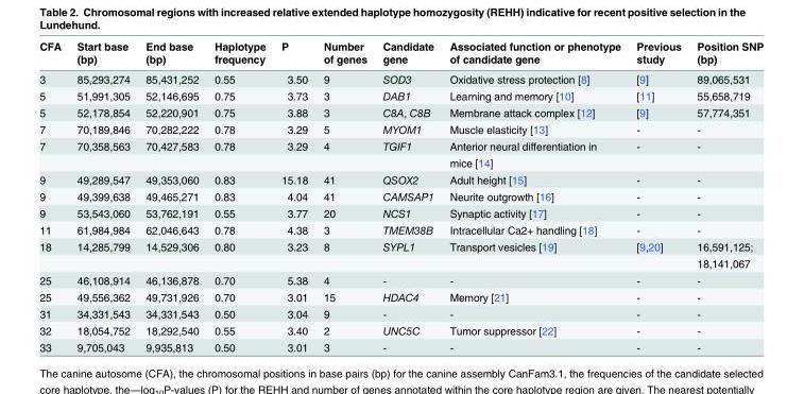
<table><thead><tr><td rowspan="2">CFA</td><td rowspan="2">Start base (bp)</td><td rowspan="2">End base (bp)</td><td rowspan="2">Haplotype frequency</td><td rowspan="2">P</td><td rowspan="2">Number of genes</td><td rowspan="2">Candidate gene</td><td rowspan="2">Associated function or phenotype of candidate gene</td><td rowspan="2">Previous study</td><td rowspan="2">Position SNP (bp)</td></tr><tr></tr></thead><tbody><tr><td>3</td><td>85,293,274</td><td>85,431,252</td><td>0.55</td><td>3.50</td><td>9</td><td>SOD3</td><td>Oxidative stress protection [8]</td><td>[9]</td><td>89,065,531</td></tr><tr><td>5</td><td>51,991,305</td><td>52,146,695</td><td>0.75</td><td>3.73</td><td>3</td><td>DAB1</td><td>Learning and memory [10]</td><td>[11]</td><td>55,658,719</td></tr><tr><td>5</td><td>52,178,854</td><td>52,220,901</td><td>0.75</td><td>3.88</td><td>3</td><td>C8A, C8B</td><td>Membrane attack complex [12]</td><td>[9]</td><td>57,774,351</td></tr><tr><td>7</td><td>70,189,846</td><td>70,282,222</td><td>0.78</td><td>3.29</td><td>5</td><td>MYOM1</td><td>Muscle elasticity [13]</td><td>-</td><td>-</td></tr><tr><td rowspan="2">7</td><td>70,358,563</td><td>70,427,583</td><td>0.78</td><td>3.29</td><td>4</td><td>TGIF1</td><td>Anterior neural differentiation in</td><td>-</td><td>-</td></tr><tr><td></td><td></td><td></td><td></td><td></td><td></td><td>mice [14]</td><td></td><td></td></tr><tr><td>9</td><td>49,289,547</td><td>49,353,060</td><td>0.83</td><td>15.18</td><td>41</td><td>QSOX2</td><td>Adult height [15]</td><td>-</td><td>-</td></tr><tr><td>9</td><td>49,399,638</td><td>49,465,271</td><td>0.83</td><td>4.04</td><td>41</td><td>CAMSAP1</td><td>Neurite outgrowth [16]</td><td>-</td><td>-</td></tr><tr><td>9</td><td>53,543,060</td><td>53,762,191</td><td>0.55</td><td>3.77</td><td>20</td><td>NCS1</td><td>Synaptic activity [17]</td><td>-</td><td>-</td></tr><tr><td>11</td><td>61,984,984</td><td>62,046,643</td><td>0.78</td><td>4.38</td><td>3</td><td>TMEM38B</td><td>Intracellular Ca2+ handling [18]</td><td>-</td><td>-</td></tr><tr><td rowspan="2">18</td><td>14,285,799</td><td>14,529,306</td><td>0.80</td><td>3.23</td><td>8</td><td>SYPL1</td><td>Transport vesicles [19]</td><td>[9,20]</td><td>16,591,125;</td></tr><tr><td></td><td></td><td></td><td></td><td></td><td></td><td></td><td></td><td>18,141,067</td></tr><tr><td>25</td><td>46,108,914</td><td>46,136,878</td><td>0.70</td><td>5.38</td><td>4</td><td>-</td><td>-</td><td>-</td><td>-</td></tr><tr><td>25</td><td>49,556,362</td><td>49,731,926</td><td>0.70</td><td>3.01</td><td>15</td><td>HDAC4</td><td>Memory [21]</td><td>-</td><td>-</td></tr><tr><td>31</td><td>34,331,543</td><td>34,331,543</td><td>0.50</td><td>3.04</td><td>9</td><td>-</td><td>-</td><td>-</td><td>-</td></tr><tr><td>32</td><td>18,054,752</td><td>18,292,540</td><td>0.55</td><td>3.40</td><td>2</td><td>UNC5C</td><td>Tumor suppressor [22]</td><td>-</td><td>-</td></tr><tr><td>33</td><td>9,705,043</td><td>9,935,813</td><td>0.50</td><td>3.01</td><td>3</td><td>-</td><td>-</td><td>-</td><td>-</td></tr></tbody></table>